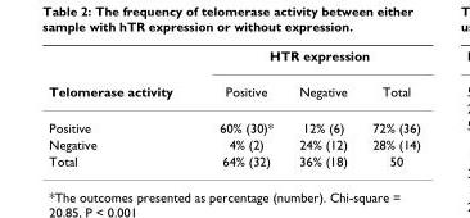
<table><thead><tr><td rowspan="2">Telomerase activity</td><td colspan="3">HTR expression</td></tr><tr><td>Positive</td><td>Negative</td><td>Total</td></tr></thead><tbody><tr><td>Positive</td><td>60% (30)*</td><td>12% (6)</td><td>72% (36)</td></tr><tr><td>Negative</td><td>4% (2)</td><td>24% (12)</td><td>28% (14)</td></tr><tr><td>Total</td><td>64% (32)</td><td>36% (18)</td><td>50</td></tr></tbody></table>